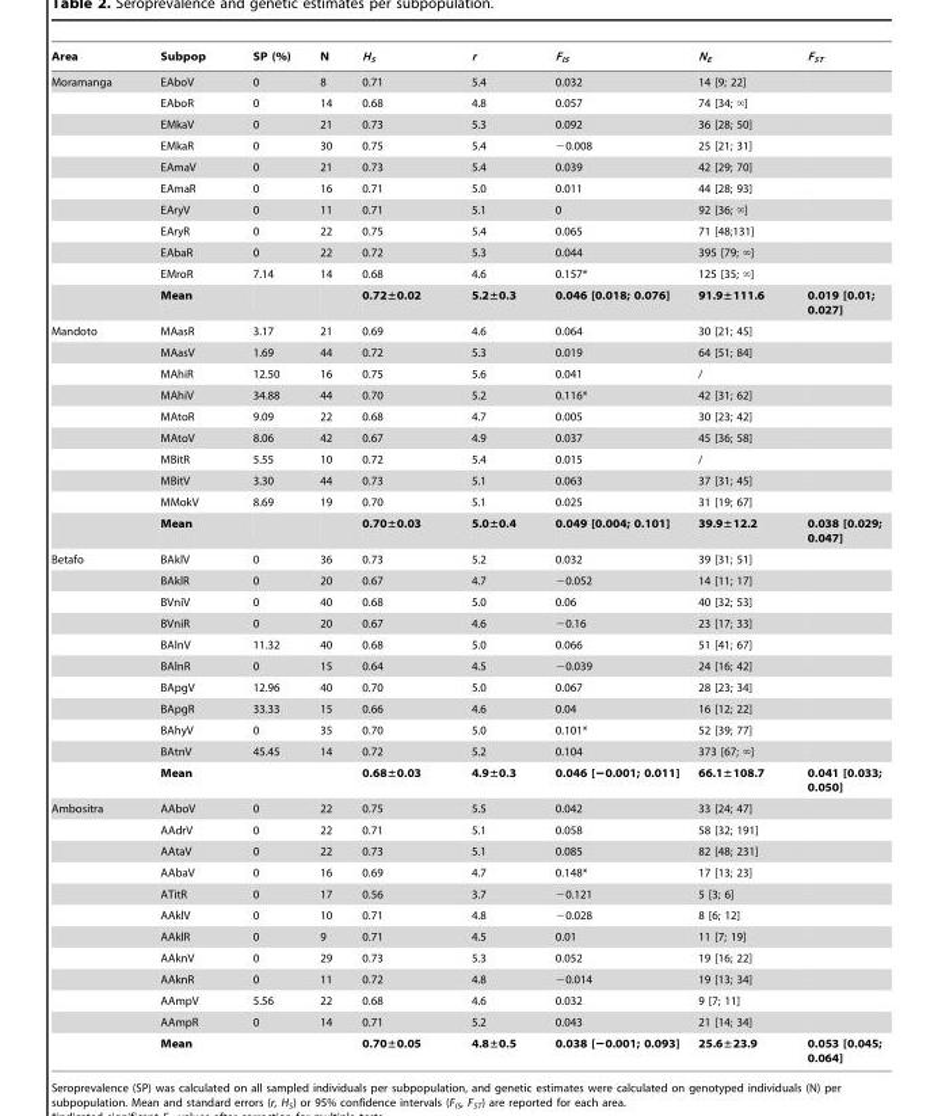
<table><thead><tr><td>Area</td><td>Subpop</td><td>SP (%)</td><td>N</td><td>H<sub>S</sub></td><td>r</td><td>F<sub>IS</sub></td><td>N<sub>E</sub></td><td>F<sub>ST</sub></td></tr></thead><tbody><tr><td rowspan="11">Moramanga</td><td>EAboV</td><td>0</td><td>8</td><td>0.71</td><td>5.4</td><td>0.032</td><td>14 [9; 22]</td><td></td></tr><tr><td>EAboR</td><td>0</td><td>14</td><td>0.68</td><td>4.8</td><td>0.057</td><td>74 [34; ‘]</td><td></td></tr><tr><td>EMkaV</td><td>0</td><td>21</td><td>0.73</td><td>5.3</td><td>0.092</td><td>36 [28; 50]</td><td></td></tr><tr><td>EMkaR</td><td>0</td><td>30</td><td>0.75</td><td>5.4</td><td>−0.008</td><td>25 [21; 31]</td><td></td></tr><tr><td>EAmaV</td><td>0</td><td>21</td><td>0.73</td><td>5.4</td><td>0.039</td><td>42 [29; 70]</td><td></td></tr><tr><td>EAmaR</td><td>0</td><td>16</td><td>0.71</td><td>5.0</td><td>0.011</td><td>44 [28; 93]</td><td></td></tr><tr><td>EAryV</td><td>0</td><td>11</td><td>0.71</td><td>5.1</td><td>0</td><td>92 [36; ‘]</td><td></td></tr><tr><td>EAryR</td><td>0</td><td>22</td><td>0.75</td><td>5.4</td><td>0.065</td><td>71 [48;131]</td><td></td></tr><tr><td>EAbaR</td><td>0</td><td>22</td><td>0.72</td><td>5.3</td><td>0.044</td><td>395 [79; ‘]</td><td></td></tr><tr><td>EMroR</td><td>7.14</td><td>14</td><td>0.68</td><td>4.6</td><td>0.157*</td><td>125 [35; ‘]</td><td></td></tr><tr><td>Mean</td><td></td><td></td><td>0.72±0.02</td><td>5.2±0.3</td><td>0.046 [0.018; 0.076]</td><td>91.9±111.6</td><td>0.019 [0.01; 0.027]</td></tr><tr><td rowspan="10">Mandoto</td><td>MAasR</td><td>3.17</td><td>21</td><td>0.69</td><td>4.6</td><td>0.064</td><td>30 [21; 45]</td><td></td></tr><tr><td>MAasV</td><td>1.69</td><td>44</td><td>0.72</td><td>5.3</td><td>0.019</td><td>64 [51; 84]</td><td></td></tr><tr><td>MAhiR</td><td>12.50</td><td>16</td><td>0.75</td><td>5.6</td><td>0.041</td><td>/</td><td></td></tr><tr><td>MAhiV</td><td>34.88</td><td>44</td><td>0.70</td><td>5.2</td><td>0.116*</td><td>42 [31; 62]</td><td></td></tr><tr><td>MAtoR</td><td>9.09</td><td>22</td><td>0.68</td><td>4.7</td><td>0.005</td><td>30 [23; 42]</td><td></td></tr><tr><td>MAtoV</td><td>8.06</td><td>42</td><td>0.67</td><td>4.9</td><td>0.037</td><td>45 [36; 58]</td><td></td></tr><tr><td>MBitR</td><td>5.55</td><td>10</td><td>0.72</td><td>5.4</td><td>0.015</td><td>/</td><td></td></tr><tr><td>MBitV</td><td>3.30</td><td>44</td><td>0.73</td><td>5.1</td><td>0.063</td><td>37 [31; 45]</td><td></td></tr><tr><td>MMokV</td><td>8.69</td><td>19</td><td>0.70</td><td>5.1</td><td>0.025</td><td>31 [19; 67]</td><td></td></tr><tr><td>Mean</td><td></td><td></td><td>0.70±0.03</td><td>5.0±0.4</td><td>0.049 [0.004; 0.101]</td><td>39.9±12.2</td><td>0.038 [0.029; 0.047]</td></tr><tr><td rowspan="11">Betafo</td><td>BAklV</td><td>0</td><td>36</td><td>0.73</td><td>5.2</td><td>0.032</td><td>39 [31; 51]</td><td></td></tr><tr><td>BAklR</td><td>0</td><td>20</td><td>0.67</td><td>4.7</td><td>−0.052</td><td>14 [11; 17]</td><td></td></tr><tr><td>BVniV</td><td>0</td><td>40</td><td>0.68</td><td>5.0</td><td>0.06</td><td>40 [32; 53]</td><td></td></tr><tr><td>BVniR</td><td>0</td><td>20</td><td>0.67</td><td>4.6</td><td>−0.16</td><td>23 [17; 33]</td><td></td></tr><tr><td>BAlnV</td><td>11.32</td><td>40</td><td>0.68</td><td>5.0</td><td>0.066</td><td>51 [41; 67]</td><td></td></tr><tr><td>BAlnR</td><td>0</td><td>15</td><td>0.64</td><td>4.5</td><td>−0.039</td><td>24 [16; 42]</td><td></td></tr><tr><td>BApgV</td><td>12.96</td><td>40</td><td>0.70</td><td>5.0</td><td>0.067</td><td>28 [23; 34]</td><td></td></tr><tr><td>BApgR</td><td>33.33</td><td>15</td><td>0.66</td><td>4.6</td><td>0.04</td><td>16 [12; 22]</td><td></td></tr><tr><td>BAhyV</td><td>0</td><td>35</td><td>0.70</td><td>5.0</td><td>0.101*</td><td>52 [39; 77]</td><td></td></tr><tr><td>BAtnV</td><td>45.45</td><td>14</td><td>0.72</td><td>5.2</td><td>0.104</td><td>373 [67; ‘]</td><td></td></tr><tr><td>Mean</td><td></td><td></td><td>0.68±0.03</td><td>4.9±0.3</td><td>0.046 [−0.001; 0.011]</td><td>66.1±108.7</td><td>0.041 [0.033; 0.050]</td></tr><tr><td rowspan="12">Ambositra</td><td>AAboV</td><td>0</td><td>22</td><td>0.75</td><td>5.5</td><td>0.042</td><td>33 [24; 47]</td><td></td></tr><tr><td>AAdrV</td><td>0</td><td>22</td><td>0.71</td><td>5.1</td><td>0.058</td><td>58 [32; 191]</td><td></td></tr><tr><td>AAtaV</td><td>0</td><td>22</td><td>0.73</td><td>5.1</td><td>0.085</td><td>82 [48; 231]</td><td></td></tr><tr><td>AAbaV</td><td>0</td><td>16</td><td>0.69</td><td>4.7</td><td>0.148*</td><td>17 [13; 23]</td><td></td></tr><tr><td>ATitR</td><td>0</td><td>17</td><td>0.56</td><td>3.7</td><td>−0.121</td><td>5 [3; 6]</td><td></td></tr><tr><td>AAklV</td><td>0</td><td>10</td><td>0.71</td><td>4.8</td><td>−0.028</td><td>8 [6; 12]</td><td></td></tr><tr><td>AAklR</td><td>0</td><td>9</td><td>0.71</td><td>4.5</td><td>0.01</td><td>11 [7; 19]</td><td></td></tr><tr><td>AAknV</td><td>0</td><td>29</td><td>0.73</td><td>5.3</td><td>0.052</td><td>19 [16; 22]</td><td></td></tr><tr><td>AAknR</td><td>0</td><td>11</td><td>0.72</td><td>4.8</td><td>−0.014</td><td>19 [13; 34]</td><td></td></tr><tr><td>AAmpV</td><td>5.56</td><td>22</td><td>0.68</td><td>4.6</td><td>0.032</td><td>9 [7; 11]</td><td></td></tr><tr><td>AAmpR</td><td>0</td><td>14</td><td>0.71</td><td>5.2</td><td>0.043</td><td>21 [14; 34]</td><td></td></tr><tr><td>Mean</td><td></td><td></td><td>0.70±0.05</td><td>4.8±0.5</td><td>0.038 [−0.001; 0.093]</td><td>25.6±23.9</td><td>0.053 [0.045; 0.064]</td></tr></tbody></table>